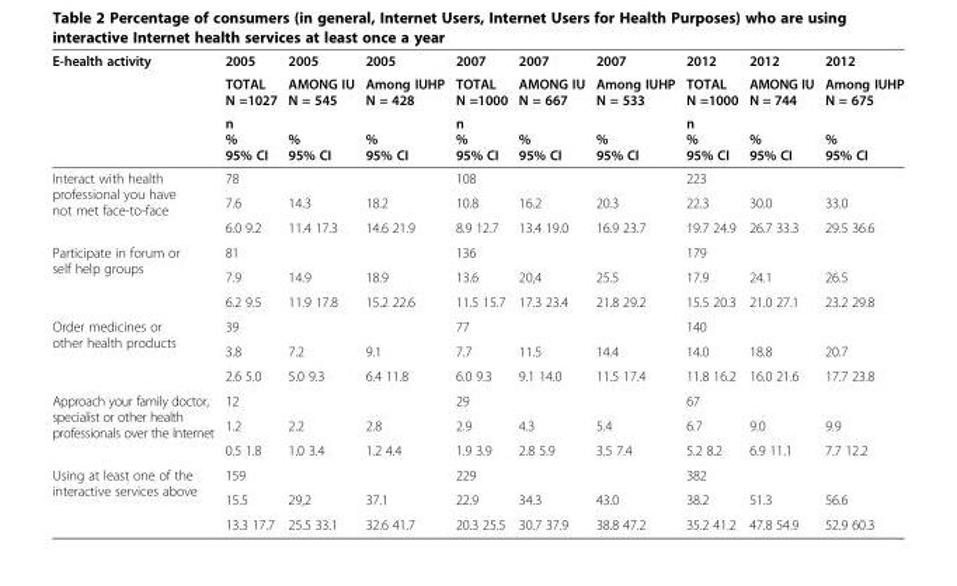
<table><thead><tr><td rowspan="3">E-health activity</td><td rowspan="3">2005 TOTAL N =1027 n % 95% CI</td><td rowspan="3">2005 AMONG IU N = 545 % 95% CI</td><td rowspan="3">2005 Among IUHP N = 428 % 95% CI</td><td rowspan="3">2007 TOTAL N =1000 n % 95% CI</td><td rowspan="3">2007 AMONG IU N = 667 % 95% CI</td><td rowspan="3">2007 Among IUHP N = 533 % 95% CI</td><td rowspan="3">2012 TOTAL N =1000 n % 95% CI</td><td rowspan="3">2012 AMONG IU N = 744 % 95% CI</td><td rowspan="3">2012 Among IUHP N = 675 % 95% CI</td></tr><tr></tr><tr></tr></thead><tbody><tr><td rowspan="3">Interact with health professional you have not met face-to-face</td><td>78</td><td></td><td></td><td>108</td><td></td><td></td><td>223</td><td></td><td></td></tr><tr><td>7.6</td><td>14.3</td><td>18.2</td><td>10.8</td><td>16.2</td><td>20.3</td><td>22.3</td><td>30.0</td><td>33.0</td></tr><tr><td>6.0 9.2</td><td>11.4 17.3</td><td>14.6 21.9</td><td>8.9 12.7</td><td>13.4 19.0</td><td>16.9 23.7</td><td>19.7 24.9</td><td>26.7 33.3</td><td>29.5 36.6</td></tr><tr><td rowspan="3">Participate in forum or self help groups</td><td>81</td><td></td><td></td><td>136</td><td></td><td></td><td>179</td><td></td><td></td></tr><tr><td>7.9</td><td>14.9</td><td>18.9</td><td>13.6</td><td>20,4</td><td>25.5</td><td>17.9</td><td>24.1</td><td>26.5</td></tr><tr><td>6.2 9.5</td><td>11.9 17.8</td><td>15.2 22.6</td><td>11.5 15.7</td><td>17.3 23.4</td><td>21.8 29.2</td><td>15.5 20.3</td><td>21.0 27.1</td><td>23.2 29.8</td></tr><tr><td rowspan="3">Order medicines or other health products</td><td>39</td><td></td><td></td><td>77</td><td></td><td></td><td>140</td><td></td><td></td></tr><tr><td>3.8</td><td>7.2</td><td>9.1</td><td>7.7</td><td>11.5</td><td>14.4</td><td>14.0</td><td>18.8</td><td>20.7</td></tr><tr><td>2.6 5.0</td><td>5.0 9.3</td><td>6.4 11.8</td><td>6.0 9.3</td><td>9.1 14.0</td><td>11.5 17.4</td><td>11.8 16.2</td><td>16.0 21.6</td><td>17.7 23.8</td></tr><tr><td rowspan="3">Approach your family doctor, specialist or other health professionals over the Internet</td><td>12</td><td></td><td></td><td>29</td><td></td><td></td><td>67</td><td></td><td></td></tr><tr><td>1.2</td><td>2.2</td><td>2.8</td><td>2.9</td><td>4.3</td><td>5.4</td><td>6.7</td><td>9.0</td><td>9.9</td></tr><tr><td>0.5 1.8</td><td>1.0 3.4</td><td>1.2 4.4</td><td>1.9 3.9</td><td>2.8 5.9</td><td>3.5 7.4</td><td>5.2 8.2</td><td>6.9 11.1</td><td>7.7 12.2</td></tr><tr><td rowspan="3">Using at least one of the interactive services above</td><td>159</td><td></td><td></td><td>229</td><td></td><td></td><td>382</td><td></td><td></td></tr><tr><td>15.5</td><td>29,2</td><td>37.1</td><td>22.9</td><td>34.3</td><td>43.0</td><td>38.2</td><td>51.3</td><td>56.6</td></tr><tr><td>13.3 17.7</td><td>25.5 33.1</td><td>32.6 41.7</td><td>20.3 25.5</td><td>30.7 37.9</td><td>38.8 47.2</td><td>35.2 41.2</td><td>47.8 54.9</td><td>52.9 60.3</td></tr></tbody></table>